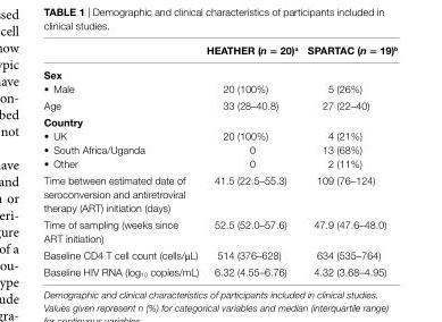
<table><thead><tr><td></td><td>heaTher (n = 20)<sup>a</sup></td><td>sParTac (n = 19)<sup>b</sup></td></tr></thead><tbody><tr><td colspan="3">sex</td></tr><tr><td>• Male</td><td>20 (100%)</td><td>5 (26%)</td></tr><tr><td>Age</td><td>33 (28–40.8)</td><td>27 (22–40)</td></tr><tr><td colspan="3">country</td></tr><tr><td>• UK</td><td>20 (100%)</td><td>4 (21%)</td></tr><tr><td>• South Africa/Uganda</td><td>0</td><td>13 (68%)</td></tr><tr><td>• Other</td><td>0</td><td>2 (11%)</td></tr><tr><td>Time between estimated date of seroconversion and antiretroviral therapy (ART) initiation (days)</td><td>41.5 (22.5–55.3)</td><td>109 (76–124)</td></tr><tr><td>Time of sampling (weeks since ART initiation)</td><td>52.5 (52.0–57.6)</td><td>47.9 (47.6–48.0)</td></tr><tr><td>Baseline CD4 T cell count (cells/μL)</td><td>514 (376–628)</td><td>634 (535–764)</td></tr><tr><td>Baseline HIV RNA (log<sub>10</sub> copies/mL)</td><td>6.32 (4.55–6.76)</td><td>4.32 (3.68–4.95)</td></tr></tbody></table>